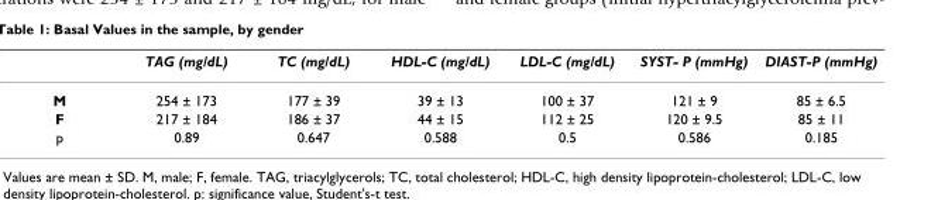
<table><thead><tr><td></td><td>TAG (mg/dL)</td><td>TC (mg/dL)</td><td>HDL-C (mg/dL)</td><td>LDL-C (mg/dL)</td><td>SYST- P (mmHg)</td><td>DIAST-P (mmHg)</td></tr></thead><tbody><tr><td>M</td><td>254 ± 173</td><td>177 ± 39</td><td>39 ± 13</td><td>100 ± 37</td><td>121 ± 9</td><td>85 ± 6.5</td></tr><tr><td>F</td><td>217 ± 184</td><td>186 ± 37</td><td>44 ± 15</td><td>112 ± 25</td><td>120 ± 9.5</td><td>85 ± 11</td></tr><tr><td>p</td><td>0.89</td><td>0.647</td><td>0.588</td><td>0.5</td><td>0.586</td><td>0.185</td></tr></tbody></table>